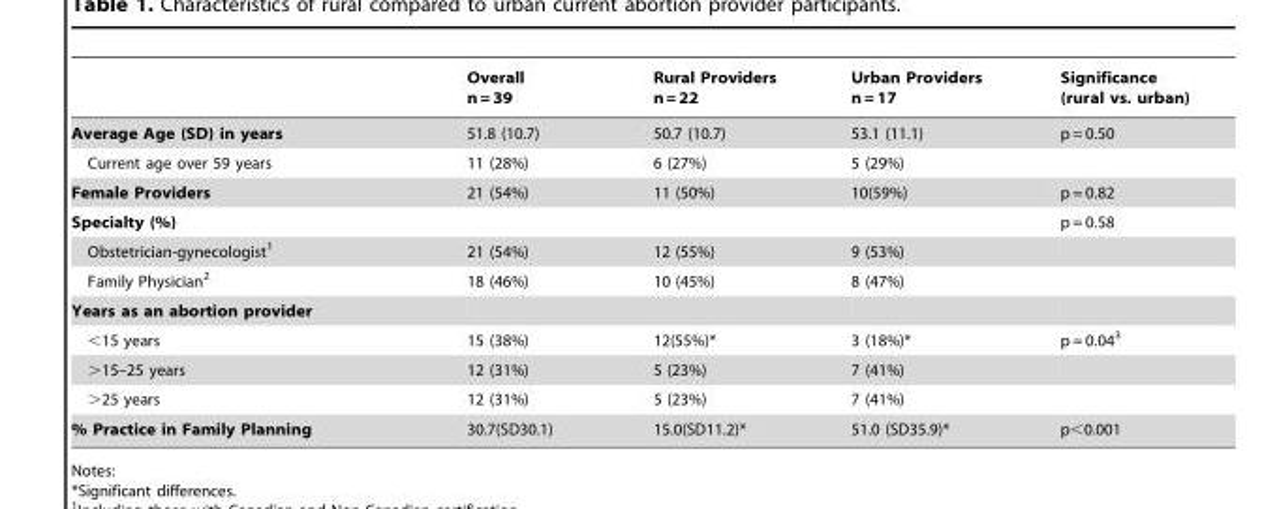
<table><thead><tr><td></td><td>Overall n = 39</td><td>Rural Providers n = 22</td><td>Urban Providers n = 17</td><td>Significance (rural vs. urban)</td></tr></thead><tbody><tr><td>Average Age (SD) in years</td><td>51.8 (10.7)</td><td>50.7 (10.7)</td><td>53.1 (11.1)</td><td>p = 0.50</td></tr><tr><td>Current age over 59 years</td><td>11 (28%)</td><td>6 (27%)</td><td>5 (29%)</td><td></td></tr><tr><td>Female Providers</td><td>21 (54%)</td><td>11 (50%)</td><td>10(59%)</td><td>p = 0.82</td></tr><tr><td>Specialty (%)</td><td></td><td></td><td></td><td>p = 0.58</td></tr><tr><td>Obstetrician-gynecologist<sup>1</sup></td><td>21 (54%)</td><td>12 (55%)</td><td>9 (53%)</td><td></td></tr><tr><td>Family Physician<sup>2</sup></td><td>18 (46%)</td><td>10 (45%)</td><td>8 (47%)</td><td></td></tr><tr><td colspan="5">Years as an abortion provider</td></tr><tr><td>&lt;15 years</td><td>15 (38%)</td><td>12(55%)*</td><td>3 (18%)*</td><td>p = 0.04<sup>3</sup></td></tr><tr><td>&gt;15–25 years</td><td>12 (31%)</td><td>5 (23%)</td><td>7 (41%)</td><td></td></tr><tr><td>&gt;25 years</td><td>12 (31%)</td><td>5 (23%)</td><td>7 (41%)</td><td></td></tr><tr><td>% Practice in Family Planning</td><td>30.7(SD30.1)</td><td>15.0(SD11.2)*</td><td>51.0 (SD35.9)*</td><td>p&lt;0.001</td></tr></tbody></table>